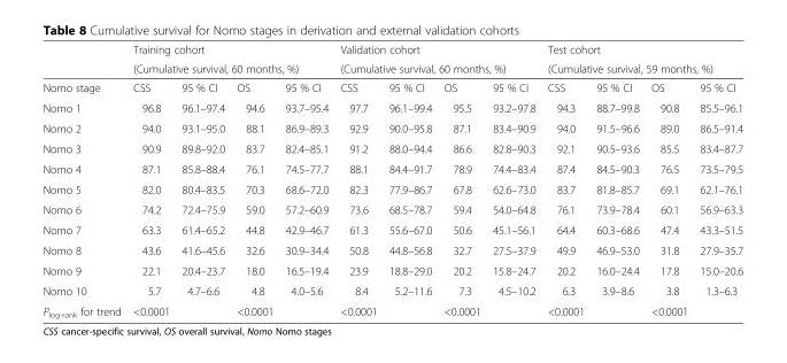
<table><thead><tr><td rowspan="3">Nomo stage</td><td rowspan="2" colspan="4">Training cohort (Cumulative survival, 60 months, %)</td><td rowspan="2" colspan="4">Validation cohort (Cumulative survival, 60 months, %)</td><td rowspan="2" colspan="4">Test cohort (Cumulative survival, 59 months, %)</td></tr><tr></tr><tr><td>CSS</td><td>95 % CI</td><td>OS</td><td>95 % CI</td><td>CSS</td><td>95 % CI</td><td>OS</td><td>95 % CI</td><td>CSS</td><td>95 % CI</td><td>OS</td><td>95 % CI</td></tr></thead><tbody><tr><td>Nomo 1</td><td>96.8</td><td>96.1–97.4</td><td>94.6</td><td>93.7–95.4</td><td>97.7</td><td>96.1–99.4</td><td>95.5</td><td>93.2–97.8</td><td>94.3</td><td>88.7–99.8</td><td>90.8</td><td>85.5–96.1</td></tr><tr><td>Nomo 2</td><td>94.0</td><td>93.1–95.0</td><td>88.1</td><td>86.9–89.3</td><td>92.9</td><td>90.0–95.8</td><td>87.1</td><td>83.4–90.9</td><td>94.0</td><td>91.5–96.6</td><td>89.0</td><td>86.5–91.4</td></tr><tr><td>Nomo 3</td><td>90.9</td><td>89.8–92.0</td><td>83.7</td><td>82.4–85.1</td><td>91.2</td><td>88.0–94.4</td><td>86.6</td><td>82.8–90.3</td><td>92.1</td><td>90.5–93.6</td><td>85.5</td><td>83.4–87.7</td></tr><tr><td>Nomo 4</td><td>87.1</td><td>85.8–88.4</td><td>76.1</td><td>74.5–77.7</td><td>88.1</td><td>84.4–91.7</td><td>78.9</td><td>74.4–83.4</td><td>87.4</td><td>84.5–90.3</td><td>76.5</td><td>73.5–79.5</td></tr><tr><td>Nomo 5</td><td>82.0</td><td>80.4–83.5</td><td>70.3</td><td>68.6–72.0</td><td>82.3</td><td>77.9–86.7</td><td>67.8</td><td>62.6–73.0</td><td>83.7</td><td>81.8–85.7</td><td>69.1</td><td>62.1–76.1</td></tr><tr><td>Nomo 6</td><td>74.2</td><td>72.4–75.9</td><td>59.0</td><td>57.2–60.9</td><td>73.6</td><td>68.5–78.7</td><td>59.4</td><td>54.0–64.8</td><td>76.1</td><td>73.9–78.4</td><td>60.1</td><td>56.9–63.3</td></tr><tr><td>Nomo 7</td><td>63.3</td><td>61.4–65.2</td><td>44.8</td><td>42.9–46.7</td><td>61.3</td><td>55.6–67.0</td><td>50.6</td><td>45.1–56.1</td><td>64.4</td><td>60.3–68.6</td><td>47.4</td><td>43.3–51.5</td></tr><tr><td>Nomo 8</td><td>43.6</td><td>41.6–45.6</td><td>32.6</td><td>30.9–34.4</td><td>50.8</td><td>44.8–56.8</td><td>32.7</td><td>27.5–37.9</td><td>49.9</td><td>46.9–53.0</td><td>31.8</td><td>27.9–35.7</td></tr><tr><td>Nomo 9</td><td>22.1</td><td>20.4–23.7</td><td>18.0</td><td>16.5–19.4</td><td>23.9</td><td>18.8–29.0</td><td>20.2</td><td>15.8–24.7</td><td>20.2</td><td>16.0–24.4</td><td>17.8</td><td>15.0–20.6</td></tr><tr><td>Nomo 10</td><td>5.7</td><td>4.7–6.6</td><td>4.8</td><td>4.0–5.6</td><td>8.4</td><td>5.2–11.6</td><td>7.3</td><td>4.5–10.2</td><td>6.3</td><td>3.9–8.6</td><td>3.8</td><td>1.3–6.3</td></tr><tr><td>P<sub>log-rank</sub> for trend</td><td>&lt;0.0001</td><td></td><td>&lt;0.0001</td><td></td><td>&lt;0.0001</td><td></td><td>&lt;0.0001</td><td></td><td>&lt;0.0001</td><td></td><td>&lt;0.0001</td><td></td></tr></tbody></table>